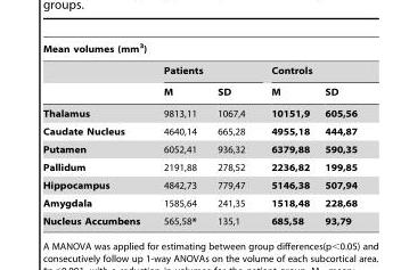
<table><thead><tr><td colspan="5">Mean volumes (mm<sup>3</sup>)</td></tr><tr><td rowspan="2"></td><td colspan="2">Patients</td><td colspan="2">Controls</td></tr><tr><td>M</td><td>SD</td><td>M</td><td>SD</td></tr></thead><tbody><tr><td>Thalamus</td><td>9813,11</td><td>1067,4</td><td>10151,9</td><td>605,56</td></tr><tr><td>Caudate Nucleus</td><td>4640,14</td><td>665,28</td><td>4955,18</td><td>444,87</td></tr><tr><td>Putamen</td><td>6052,41</td><td>936,32</td><td>6379,88</td><td>590,35</td></tr><tr><td>Pallidum</td><td>2191,88</td><td>278,52</td><td>2236,82</td><td>199,85</td></tr><tr><td>Hippocampus</td><td>4842,73</td><td>779,47</td><td>5146,38</td><td>507,94</td></tr><tr><td>Amygdala</td><td>1585,64</td><td>241,35</td><td>1518,48</td><td>228,68</td></tr><tr><td>Nucleus Accumbens</td><td>565,58*</td><td>135,1</td><td>685,58</td><td>93,79</td></tr></tbody></table>